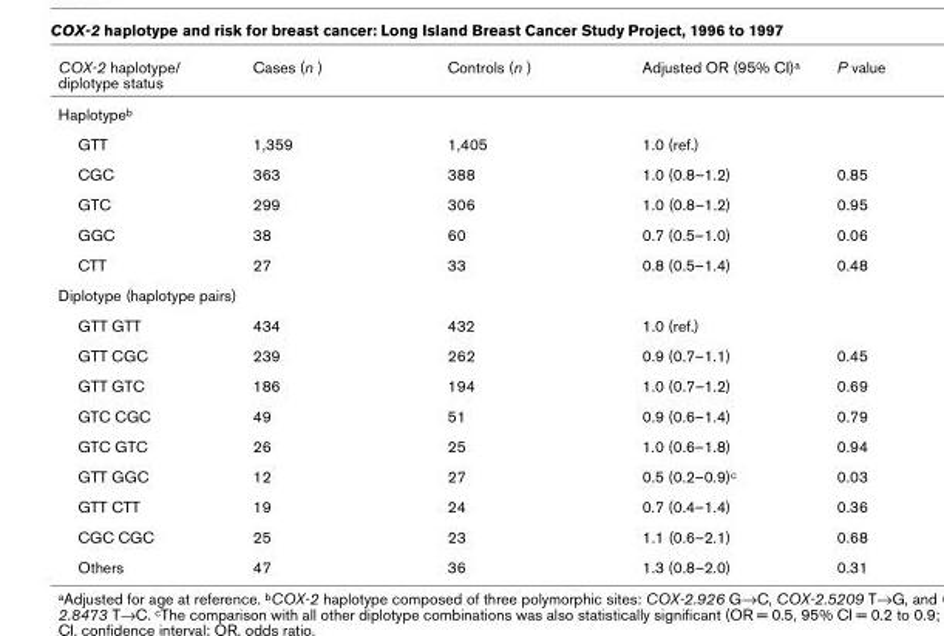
<table><thead><tr><td>COX-2 haplotype/ diplotype status</td><td>Cases (n )</td><td>Controls (n )</td><td>Adjusted OR (95% CI)a</td><td>P value</td></tr></thead><tbody><tr><td colspan="5">Haplotypeb</td></tr><tr><td>GTT</td><td>1,359</td><td>1,405</td><td>1.0 (ref.)</td><td></td></tr><tr><td>CGC</td><td>363</td><td>388</td><td>1.0 (0.8–1.2)</td><td>0.85</td></tr><tr><td>GTC</td><td>299</td><td>306</td><td>1.0 (0.8–1.2)</td><td>0.95</td></tr><tr><td>GGC</td><td>38</td><td>60</td><td>0.7 (0.5–1.0)</td><td>0.06</td></tr><tr><td>CTT</td><td>27</td><td>33</td><td>0.8 (0.5–1.4)</td><td>0.48</td></tr><tr><td colspan="5">Diplotype (haplotype pairs)</td></tr><tr><td>GTT GTT</td><td>434</td><td>432</td><td>1.0 (ref.)</td><td></td></tr><tr><td>GTT CGC</td><td>239</td><td>262</td><td>0.9 (0.7–1.1)</td><td>0.45</td></tr><tr><td>GTT GTC</td><td>186</td><td>194</td><td>1.0 (0.7–1.2)</td><td>0.69</td></tr><tr><td>GTC CGC</td><td>49</td><td>51</td><td>0.9 (0.6–1.4)</td><td>0.79</td></tr><tr><td>GTC GTC</td><td>26</td><td>25</td><td>1.0 (0.6–1.8)</td><td>0.94</td></tr><tr><td>GTT GGC</td><td>12</td><td>27</td><td>0.5 (0.2–0.9)c</td><td>0.03</td></tr><tr><td>GTT CTT</td><td>19</td><td>24</td><td>0.7 (0.4–1.4)</td><td>0.36</td></tr><tr><td>CGC CGC</td><td>25</td><td>23</td><td>1.1 (0.6–2.1)</td><td>0.68</td></tr><tr><td>Others</td><td>47</td><td>36</td><td>1.3 (0.8–2.0)</td><td>0.31</td></tr></tbody></table>